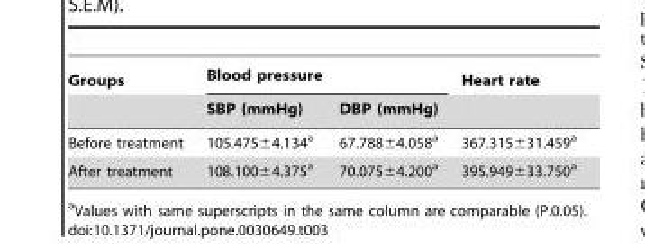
<table><thead><tr><td rowspan="2">Groups</td><td colspan="2">Blood pressure</td><td rowspan="2">Heart rate</td></tr><tr><td>SBP (mmHg)</td><td>DBP (mmHg)</td></tr></thead><tbody><tr><td>Before treatment</td><td>105.475±4.134<sup>a</sup></td><td>67.788±4.058<sup>a</sup></td><td>367.315±31.459<sup>a</sup></td></tr><tr><td>After treatment</td><td>108.100±4.375<sup>a</sup></td><td>70.075±4.200<sup>a</sup></td><td>395.949±33.750<sup>a</sup></td></tr></tbody></table>